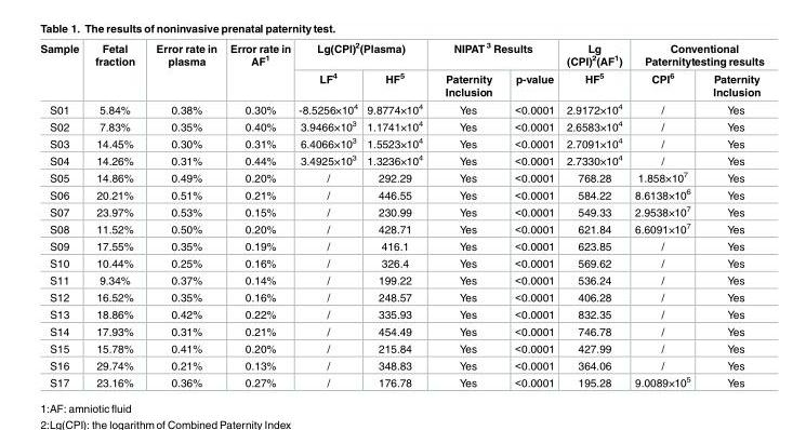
<table><thead><tr><td rowspan="2">Sample</td><td rowspan="2">Fetal fraction</td><td rowspan="2">Error rate in plasma</td><td rowspan="2">Error rate in AF<sup>1</sup></td><td colspan="2">Lg(CPI)<sup>2</sup>(Plasma)</td><td colspan="2">NIPAT <sup>3</sup> Results</td><td rowspan="2">Lg (CPI)<sup>2</sup>(AF<sup>1</sup>) HF<sup>5</sup></td><td colspan="2">Conventional Paternitytesting results</td></tr><tr><td>LF<sup>4</sup></td><td>HF<sup>5</sup></td><td>Paternity Inclusion</td><td>p-value</td><td>CPI<sup>6</sup></td><td>Paternity Inclusion</td></tr></thead><tbody><tr><td>S01</td><td>5.84%</td><td>0.38%</td><td>0.30%</td><td>-8.5256×10<sup>4</sup></td><td>9.8774×10<sup>4</sup></td><td>Yes</td><td>&lt;0.0001</td><td>2.9172×10<sup>4</sup></td><td>/</td><td>Yes</td></tr><tr><td>S02</td><td>7.83%</td><td>0.35%</td><td>0.40%</td><td>3.9466×10<sup>3</sup></td><td>1.1741×10<sup>4</sup></td><td>Yes</td><td>&lt;0.0001</td><td>2.6583×10<sup>4</sup></td><td>/</td><td>Yes</td></tr><tr><td>S03</td><td>14.45%</td><td>0.30%</td><td>0.31%</td><td>6.4066×10<sup>3</sup></td><td>1.5523×10<sup>4</sup></td><td>Yes</td><td>&lt;0.0001</td><td>2.7091×10<sup>4</sup></td><td>/</td><td>Yes</td></tr><tr><td>S04</td><td>14.26%</td><td>0.31%</td><td>0.44%</td><td>3.4925×10<sup>3</sup></td><td>1.3236×10<sup>4</sup></td><td>Yes</td><td>&lt;0.0001</td><td>2.7330×10<sup>4</sup></td><td>/</td><td>Yes</td></tr><tr><td>S05</td><td>14.86%</td><td>0.49%</td><td>0.20%</td><td>/</td><td>292.29</td><td>Yes</td><td>&lt;0.0001</td><td>768.28</td><td>1.858×10<sup>7</sup></td><td>Yes</td></tr><tr><td>S06</td><td>20.21%</td><td>0.51%</td><td>0.21%</td><td>/</td><td>446.55</td><td>Yes</td><td>&lt;0.0001</td><td>584.22</td><td>8.6138×10<sup>6</sup></td><td>Yes</td></tr><tr><td>S07</td><td>23.97%</td><td>0.53%</td><td>0.15%</td><td>/</td><td>230.99</td><td>Yes</td><td>&lt;0.0001</td><td>549.33</td><td>2.9538×10<sup>7</sup></td><td>Yes</td></tr><tr><td>S08</td><td>11.52%</td><td>0.50%</td><td>0.20%</td><td>/</td><td>428.71</td><td>Yes</td><td>&lt;0.0001</td><td>621.84</td><td>6.6091×10<sup>7</sup></td><td>Yes</td></tr><tr><td>S09</td><td>17.55%</td><td>0.35%</td><td>0.19%</td><td>/</td><td>416.1</td><td>Yes</td><td>&lt;0.0001</td><td>623.85</td><td>/</td><td>Yes</td></tr><tr><td>S10</td><td>10.44%</td><td>0.25%</td><td>0.16%</td><td>/</td><td>326.4</td><td>Yes</td><td>&lt;0.0001</td><td>569.62</td><td>/</td><td>Yes</td></tr><tr><td>S11</td><td>9.34%</td><td>0.37%</td><td>0.14%</td><td>/</td><td>199.22</td><td>Yes</td><td>&lt;0.0001</td><td>536.24</td><td>/</td><td>Yes</td></tr><tr><td>S12</td><td>16.52%</td><td>0.35%</td><td>0.16%</td><td>/</td><td>248.57</td><td>Yes</td><td>&lt;0.0001</td><td>406.28</td><td>/</td><td>Yes</td></tr><tr><td>S13</td><td>18.86%</td><td>0.42%</td><td>0.22%</td><td>/</td><td>335.93</td><td>Yes</td><td>&lt;0.0001</td><td>832.35</td><td>/</td><td>Yes</td></tr><tr><td>S14</td><td>17.93%</td><td>0.31%</td><td>0.21%</td><td>/</td><td>454.49</td><td>Yes</td><td>&lt;0.0001</td><td>746.78</td><td>/</td><td>Yes</td></tr><tr><td>S15</td><td>15.78%</td><td>0.41%</td><td>0.20%</td><td>/</td><td>215.84</td><td>Yes</td><td>&lt;0.0001</td><td>427.99</td><td>/</td><td>Yes</td></tr><tr><td>S16</td><td>29.74%</td><td>0.21%</td><td>0.13%</td><td>/</td><td>348.83</td><td>Yes</td><td>&lt;0.0001</td><td>364.06</td><td>/</td><td>Yes</td></tr><tr><td>S17</td><td>23.16%</td><td>0.36%</td><td>0.27%</td><td>/</td><td>176.78</td><td>Yes</td><td>&lt;0.0001</td><td>195.28</td><td>9.0089×10<sup>5</sup></td><td>Yes</td></tr></tbody></table>